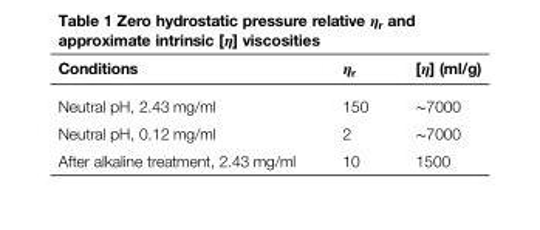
<table><thead><tr><td>Conditions</td><td>η<sub>r</sub></td><td>[η] (ml/g)</td></tr></thead><tbody><tr><td>Neutral pH, 2.43 mg/ml</td><td>150</td><td>∼7000</td></tr><tr><td>Neutral pH, 0.12 mg/ml</td><td>2</td><td>∼7000</td></tr><tr><td>After alkaline treatment, 2.43 mg/ml</td><td>10</td><td>1500</td></tr></tbody></table>